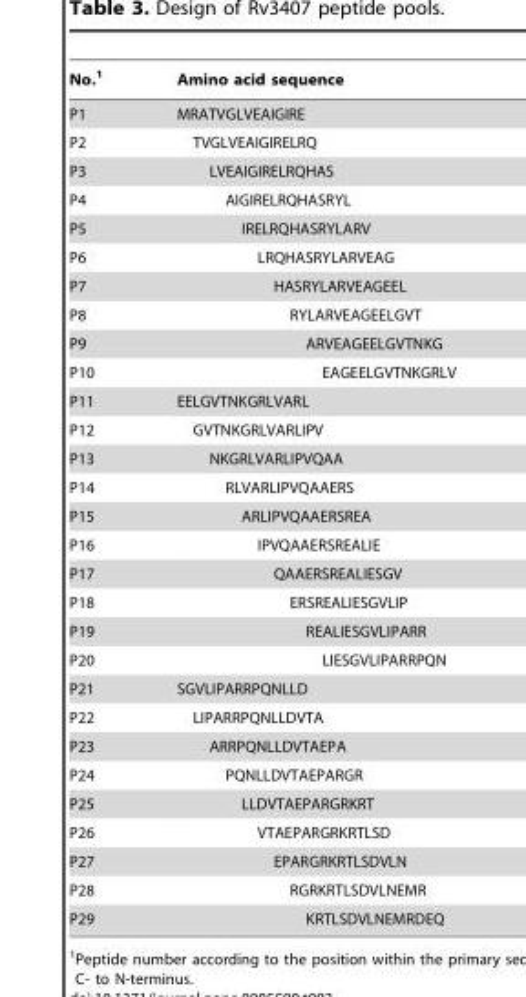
<table><thead><tr><td>No.<sup>1</sup></td><td>Amino acid sequence</td></tr></thead><tbody><tr><td>P1</td><td>MRATVGLVEAIGIRE</td></tr><tr><td>P2</td><td>TVGLVEAIGIRELRQ</td></tr><tr><td>P3</td><td>LVEAIGIRELRQHAS</td></tr><tr><td>P4</td><td>AIGIRELRQHASRYL</td></tr><tr><td>P5</td><td>IRELRQHASRYLARV</td></tr><tr><td>P6</td><td>LRQHASRYLARVEAG</td></tr><tr><td>P7</td><td>HASRYLARVEAGEEL</td></tr><tr><td>P8</td><td>RYLARVEAGEELGVT</td></tr><tr><td>P9</td><td>ARVEAGEELGVTNKG</td></tr><tr><td>P10</td><td>EAGEELGVTNKGRLV</td></tr><tr><td>P11</td><td>EELGVTNKGRLVARL</td></tr><tr><td>P12</td><td>GVTNKGRLVARLIPV</td></tr><tr><td>P13</td><td>NKGRLVARLIPVQAA</td></tr><tr><td>P14</td><td>RLVARLIPVQAAERS</td></tr><tr><td>P15</td><td>ARLIPVQAAERSREA</td></tr><tr><td>P16</td><td>IPVQAAERSREALIE</td></tr><tr><td>P17</td><td>QAAERSREALIESGV</td></tr><tr><td>P18</td><td>ERSREALIESGVLIP</td></tr><tr><td>P19</td><td>REALIESGVLIPARR</td></tr><tr><td>P20</td><td>LIESGVLIPARRPQN</td></tr><tr><td>P21</td><td>SGVLIPARRPQNLLD</td></tr><tr><td>P22</td><td>LIPARRPQNLLDVTA</td></tr><tr><td>P23</td><td>ARRPQNLLDVTAEPA</td></tr><tr><td>P24</td><td>PQNLLDVTAEPARGR</td></tr><tr><td>P25</td><td>LLDVTAEPARGRKRT</td></tr><tr><td>P26</td><td>VTAEPARGRKRTLSD</td></tr><tr><td>P27</td><td>EPARGRKRTLSDVLN</td></tr><tr><td>P28</td><td>RGRKRTLSDVLNEMR</td></tr><tr><td>P29</td><td>KRTLSDVLNEMRDEQ</td></tr></tbody></table>